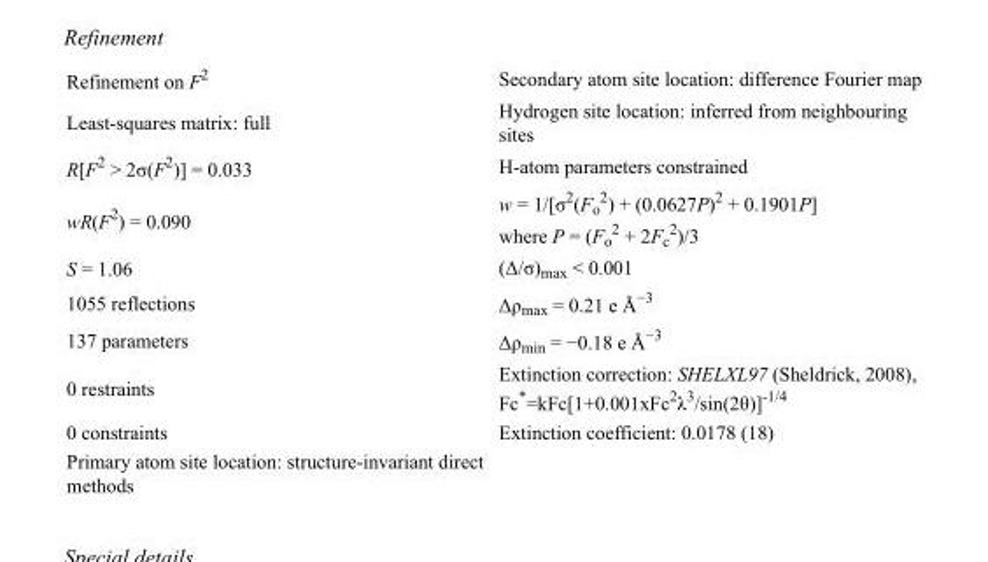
<table><tbody><tr><td>Refinement on F<sup>2</sup></td><td>Secondary atom site location: difference Fourier map</td></tr><tr><td>Least-squares matrix: full</td><td>Hydrogen site location: inferred from neighbouring sites</td></tr><tr><td>R[F<sup>2</sup> &gt; 2σ(F<sup>2</sup>)] = 0.033</td><td>H-atom parameters constrained</td></tr><tr><td>wR(F<sup>2</sup>) = 0.090</td><td>w = 1/[σ<sup>2</sup>(F<sub>o</sub> <sup>2</sup>) + (0.0627P)<sup>2</sup> + 0.1901P] where P = (F<sub>o</sub> <sup>2</sup> + 2F<sub>c</sub> <sup>2</sup>)/3</td></tr><tr><td>S = 1.06</td><td>(Δ/σ)<sub>max</sub> &lt; 0.001</td></tr><tr><td>1055 reflections</td><td>Δρ<sub>max</sub> = 0.21 e Å<sup>−3</sup></td></tr><tr><td>137 parameters</td><td>Δρ<sub>min</sub> = −0.18 e Å<sup>−3</sup></td></tr><tr><td>0 restraints</td><td>Extinction correction: SHELXL97 (Sheldrick, 2008), Fc*=kFc[1+0.001xFc<sup>2</sup>λ<sup>3</sup>/sin(2θ)]<sup>-1/4</sup></td></tr><tr><td>0 constraints</td><td>Extinction coefficient: 0.0178 (18)</td></tr><tr><td>Primary atom site location: structure-invariant direct methods</td><td></td></tr></tbody></table>